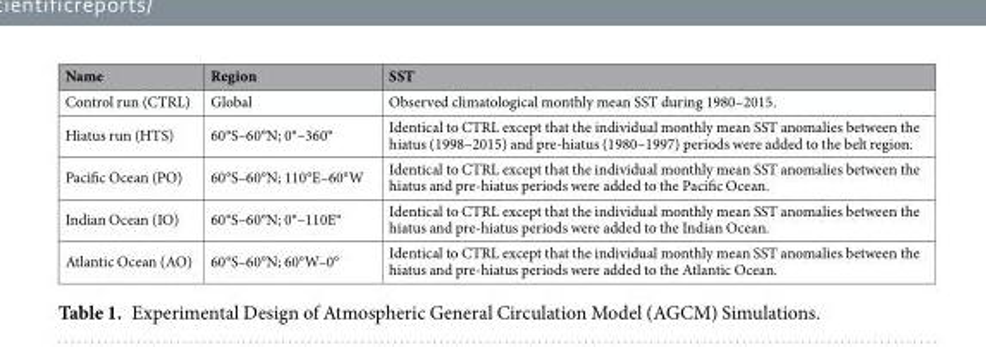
<table><thead><tr><td>Name</td><td>Region</td><td>SST</td></tr></thead><tbody><tr><td>Control run (CTRL)</td><td>Global</td><td>Observed climatological monthly mean SST during 1980–2015.</td></tr><tr><td>Hiatus run (HTS)</td><td>60°S–60°N; 0°–360°</td><td>Identical to CTRL except that the individual monthly mean SST anomalies between the hiatus (1998–2015) and pre-hiatus (1980–1997) periods were added to the belt region.</td></tr><tr><td>Pacific Ocean (PO)</td><td>60°S–60°N; 110°E–60°W</td><td>Identical to CTRL except that the individual monthly mean SST anomalies between the hiatus and pre-hiatus periods were added to the Pacific Ocean.</td></tr><tr><td>Indian Ocean (IO)</td><td>60°S–60°N; 0°–110E°</td><td>Identical to CTRL except that the individual monthly mean SST anomalies between the hiatus and pre-hiatus periods were added to the Indian Ocean.</td></tr><tr><td>Atlantic Ocean (AO)</td><td>60°S–60°N; 60°W–0°</td><td>Identical to CTRL except that the individual monthly mean SST anomalies between the hiatus and pre-hiatus periods were added to the Atlantic Ocean.</td></tr></tbody></table>